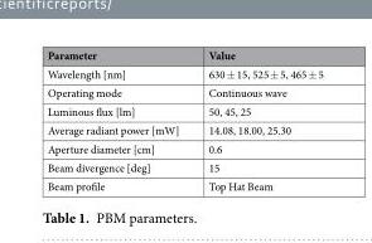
<table><thead><tr><td>Parameter</td><td>Value</td></tr></thead><tbody><tr><td>Wavelength [nm]</td><td>630 ± 15, 525 ± 5, 465 ± 5</td></tr><tr><td>Operating mode</td><td>Continuous wave</td></tr><tr><td>Luminous flux [lm]</td><td>50, 45, 25</td></tr><tr><td>Average radiant power [mW]</td><td>14.08, 18.00, 25.30</td></tr><tr><td>Aperture diameter [cm]</td><td>0.6</td></tr><tr><td>Beam divergence [deg]</td><td>15</td></tr><tr><td>Beam profile</td><td>Top Hat Beam</td></tr></tbody></table>